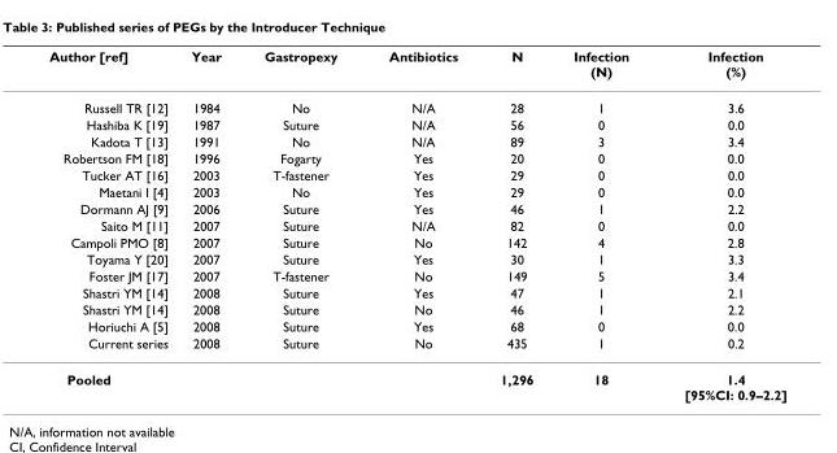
<table><thead><tr><td>Author [ref]</td><td>Year</td><td>Gastropexy</td><td>Antibiotics</td><td>N</td><td>Infection (N)</td><td>Infection (%)</td></tr></thead><tbody><tr><td>Russell TR [12]</td><td>1984</td><td>No</td><td>N/A</td><td>28</td><td>1</td><td>3.6</td></tr><tr><td>Hashiba K [19]</td><td>1987</td><td>Suture</td><td>N/A</td><td>56</td><td>0</td><td>0.0</td></tr><tr><td>Kadota T [13]</td><td>1991</td><td>No</td><td>N/A</td><td>89</td><td>3</td><td>3.4</td></tr><tr><td>Robertson FM [18]</td><td>1996</td><td>Fogarty</td><td>Yes</td><td>20</td><td>0</td><td>0.0</td></tr><tr><td>Tucker AT [16]</td><td>2003</td><td>T-fastener</td><td>Yes</td><td>29</td><td>0</td><td>0.0</td></tr><tr><td>Maetani I [4]</td><td>2003</td><td>No</td><td>Yes</td><td>29</td><td>0</td><td>0.0</td></tr><tr><td>Dormann AJ [9]</td><td>2006</td><td>Suture</td><td>Yes</td><td>46</td><td>1</td><td>2.2</td></tr><tr><td>Saito M [11]</td><td>2007</td><td>Suture</td><td>N/A</td><td>82</td><td>0</td><td>0.0</td></tr><tr><td>Campoli PMO [8]</td><td>2007</td><td>Suture</td><td>No</td><td>142</td><td>4</td><td>2.8</td></tr><tr><td>Toyama Y [20]</td><td>2007</td><td>Suture</td><td>Yes</td><td>30</td><td>1</td><td>3.3</td></tr><tr><td>Foster JM [17]</td><td>2007</td><td>T-fastener</td><td>No</td><td>149</td><td>5</td><td>3.4</td></tr><tr><td>Shastri YM [14]</td><td>2008</td><td>Suture</td><td>Yes</td><td>47</td><td>1</td><td>2.1</td></tr><tr><td>Shastri YM [14]</td><td>2008</td><td>Suture</td><td>No</td><td>46</td><td>1</td><td>2.2</td></tr><tr><td>Horiuchi A [5]</td><td>2008</td><td>Suture</td><td>Yes</td><td>68</td><td>0</td><td>0.0</td></tr><tr><td>Current series</td><td>2008</td><td>Suture</td><td>No</td><td>435</td><td>1</td><td>0.2</td></tr><tr><td>Pooled</td><td></td><td></td><td></td><td>1,296</td><td>18</td><td>1.4 [95%CI: 0.9–2.2]</td></tr></tbody></table>